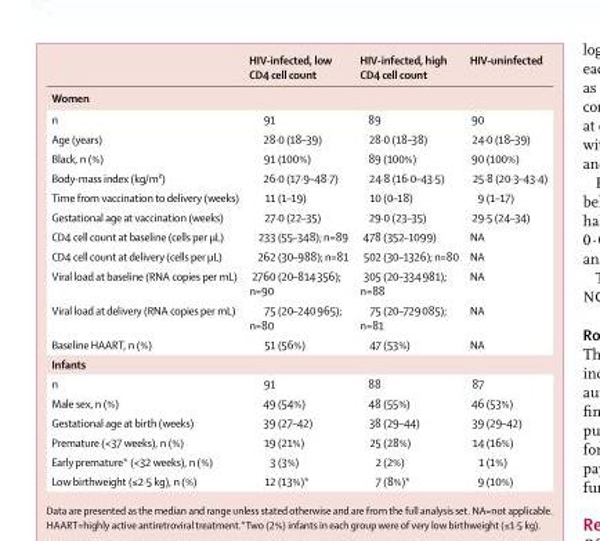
<table><thead><tr><td></td><td>HIV-infected, low CD4 cell count</td><td>HIV-infected, high CD4 cell count</td><td>HIV-uninfected</td></tr></thead><tbody><tr><td colspan="4">Women</td></tr><tr><td>n</td><td>91</td><td>89</td><td>90</td></tr><tr><td>Age (years)</td><td>28·0 (18–39)</td><td>28·0 (18–38)</td><td>24·0 (18–39)</td></tr><tr><td>Black, n (%)</td><td>91 (100%)</td><td>89 (100%)</td><td>90 (100%)</td></tr><tr><td>Body-mass index (kg/m²)</td><td>26·0 (17·9–48·7)</td><td>24·8 (16·0–43·5)</td><td>25·8 (20·3–43·4)</td></tr><tr><td>Time from vaccination to delivery (weeks)</td><td>11 (1–19)</td><td>10 (0–18)</td><td>9 (1–17)</td></tr><tr><td>Gestational age at vaccination (weeks)</td><td>27·0 (22–35)</td><td>29·0 (23–35)</td><td>29·5 (24–34)</td></tr><tr><td>CD4 cell count at baseline (cells per μL)</td><td>233 (55–348); n=89</td><td>478 (352–1099)</td><td>NA</td></tr><tr><td>CD4 cell count at delivery (cells per μL)</td><td>262 (30–988); n=81</td><td>502 (30–1326); n=80</td><td>NA</td></tr><tr><td>Viral load at baseline (RNA copies per mL)</td><td>2760 (20–814 356); n=90</td><td>305 (20–334 981); n=88</td><td>NA</td></tr><tr><td>Viral load at delivery (RNA copies per mL)</td><td>75 (20–240 965); n=80</td><td>75 (20–729 085); n=81</td><td>NA</td></tr><tr><td>Baseline HAART, n (%)</td><td>51 (56%)</td><td>47 (53%)</td><td>NA</td></tr><tr><td colspan="4">Infants</td></tr><tr><td>n</td><td>91</td><td>88</td><td>87</td></tr><tr><td>Male sex, n (%)</td><td>49 (54%)</td><td>48 (55%)</td><td>46 (53%)</td></tr><tr><td>Gestational age at birth (weeks)</td><td>39 (27–42)</td><td>38 (29–44)</td><td>39 (29–42)</td></tr><tr><td>Premature (&lt;37 weeks), n (%)</td><td>19 (21%)</td><td>25 (28%)</td><td>14 (16%)</td></tr><tr><td>Early premature* (&lt;32 weeks), n (%)</td><td>3 (3%)</td><td>2 (2%)</td><td>1 (1%)</td></tr><tr><td>Low birthweight (≤2·5 kg), n (%)</td><td>12 (13%)*</td><td>7 (8%)*</td><td>9 (10%)</td></tr></tbody></table>